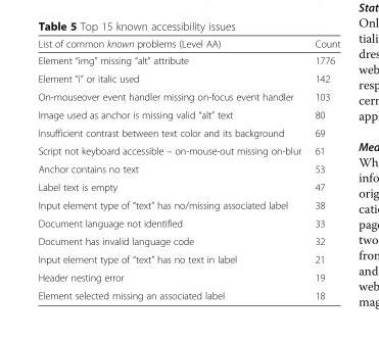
<table><thead><tr><td>List of common known problems (Level AA)</td><td>Count</td></tr></thead><tbody><tr><td>Element “img” missing “alt” attribute</td><td>1776</td></tr><tr><td>Element “i” or italic used</td><td>142</td></tr><tr><td>On-mouseover event handler missing on-focus event handler</td><td>103</td></tr><tr><td>Image used as anchor is missing valid “alt” text</td><td>80</td></tr><tr><td>Insufficient contrast between text color and its background</td><td>69</td></tr><tr><td>Script not keyboard accessible – on-mouse-out missing on-blur</td><td>61</td></tr><tr><td>Anchor contains no text</td><td>53</td></tr><tr><td>Label text is empty</td><td>47</td></tr><tr><td>Input element type of “text” has no/missing associated label</td><td>38</td></tr><tr><td>Document language not identified</td><td>33</td></tr><tr><td>Document has invalid language code</td><td>32</td></tr><tr><td>Input element type of “text” has no text in label</td><td>21</td></tr><tr><td>Header nesting error</td><td>19</td></tr><tr><td>Element selected missing an associated label</td><td>18</td></tr></tbody></table>